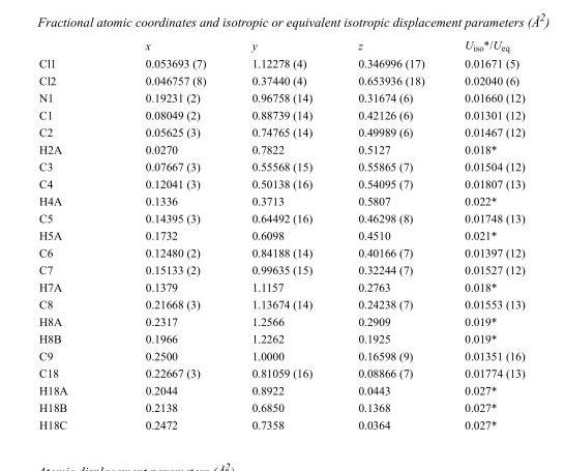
<table><thead><tr><td></td><td>x</td><td>y</td><td>z</td><td>U<sub>iso</sub>*/U<sub>eq</sub></td></tr></thead><tbody><tr><td>Cl1</td><td>0.053693 (7)</td><td>1.12278 (4)</td><td>0.346996 (17)</td><td>0.01671 (5)</td></tr><tr><td>Cl2</td><td>0.046757 (8)</td><td>0.37440 (4)</td><td>0.653936 (18)</td><td>0.02040 (6)</td></tr><tr><td>N1</td><td>0.19231 (2)</td><td>0.96758 (14)</td><td>0.31674 (6)</td><td>0.01660 (12)</td></tr><tr><td>C1</td><td>0.08049 (2)</td><td>0.88739 (14)</td><td>0.42126 (6)</td><td>0.01301 (12)</td></tr><tr><td>C2</td><td>0.05625 (3)</td><td>0.74765 (14)</td><td>0.49989 (6)</td><td>0.01467 (12)</td></tr><tr><td>H2A</td><td>0.0270</td><td>0.7822</td><td>0.5127</td><td>0.018*</td></tr><tr><td>C3</td><td>0.07667 (3)</td><td>0.55568 (15)</td><td>0.55865 (7)</td><td>0.01504 (12)</td></tr><tr><td>C4</td><td>0.12041 (3)</td><td>0.50138 (16)</td><td>0.54095 (7)</td><td>0.01807 (13)</td></tr><tr><td>H4A</td><td>0.1336</td><td>0.3713</td><td>0.5807</td><td>0.022*</td></tr><tr><td>C5</td><td>0.14395 (3)</td><td>0.64492 (16)</td><td>0.46298 (8)</td><td>0.01748 (13)</td></tr><tr><td>H5A</td><td>0.1732</td><td>0.6098</td><td>0.4510</td><td>0.021*</td></tr><tr><td>C6</td><td>0.12480 (2)</td><td>0.84188 (14)</td><td>0.40166 (7)</td><td>0.01397 (12)</td></tr><tr><td>C7</td><td>0.15133 (2)</td><td>0.99635 (15)</td><td>0.32244 (7)</td><td>0.01527 (12)</td></tr><tr><td>H7A</td><td>0.1379</td><td>1.1157</td><td>0.2763</td><td>0.018*</td></tr><tr><td>C8</td><td>0.21668 (3)</td><td>1.13674 (14)</td><td>0.24238 (7)</td><td>0.01553 (13)</td></tr><tr><td>H8A</td><td>0.2317</td><td>1.2566</td><td>0.2909</td><td>0.019*</td></tr><tr><td>H8B</td><td>0.1966</td><td>1.2262</td><td>0.1925</td><td>0.019*</td></tr><tr><td>C9</td><td>0.2500</td><td>1.0000</td><td>0.16598 (9)</td><td>0.01351 (16)</td></tr><tr><td>C18</td><td>0.22667 (3)</td><td>0.81059 (16)</td><td>0.08866 (7)</td><td>0.01774 (13)</td></tr><tr><td>H18A</td><td>0.2044</td><td>0.8922</td><td>0.0443</td><td>0.027*</td></tr><tr><td>H18B</td><td>0.2138</td><td>0.6850</td><td>0.1368</td><td>0.027*</td></tr><tr><td>H18C</td><td>0.2472</td><td>0.7358</td><td>0.0364</td><td>0.027*</td></tr></tbody></table>